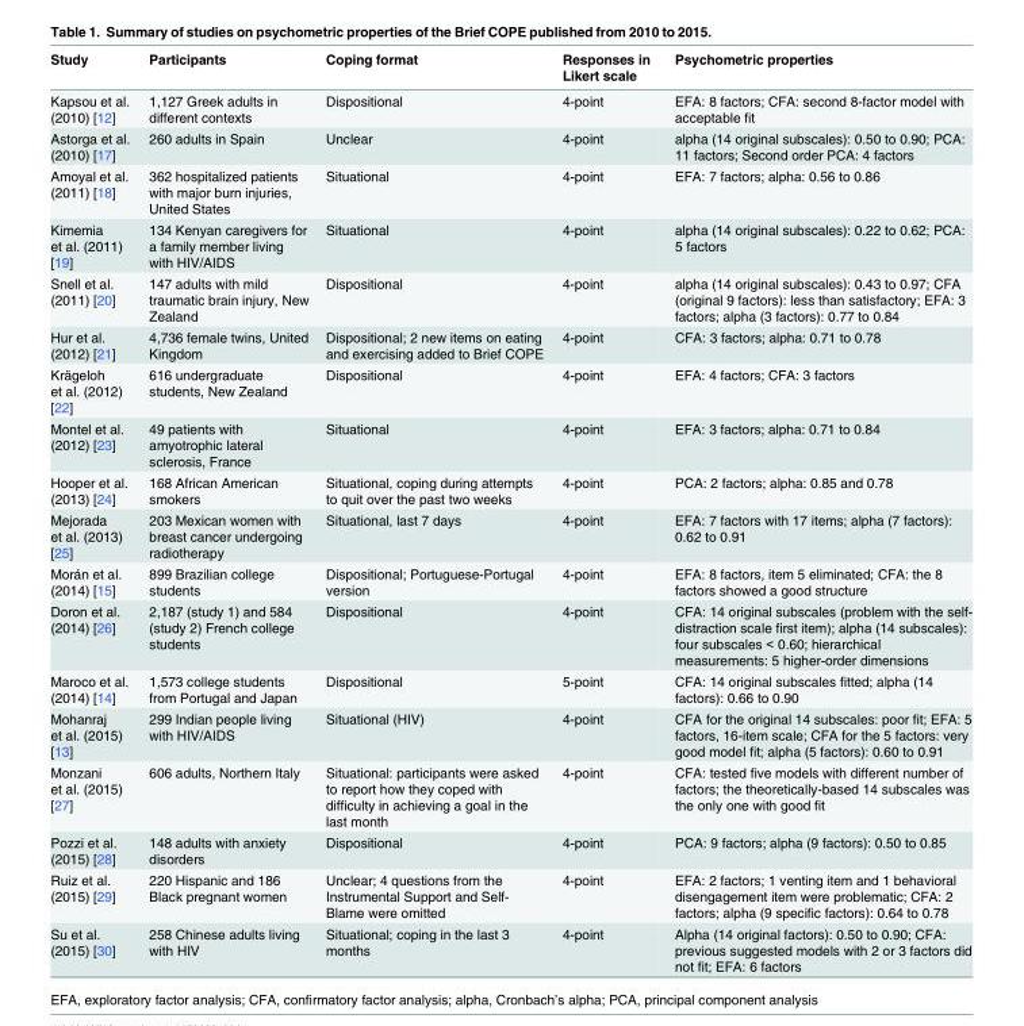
<table><thead><tr><td>Study</td><td>Participants</td><td>Coping format</td><td>Responses in Likert scale</td><td>Psychometric properties</td></tr></thead><tbody><tr><td>Kapsou et al. (2010) [12]</td><td>1,127 Greek adults in different contexts</td><td>Dispositional</td><td>4-point</td><td>EFA: 8 factors; CFA: second 8-factor model with acceptable fit</td></tr><tr><td>Astorga et al. (2010) [17]</td><td>260 adults in Spain</td><td>Unclear</td><td>4-point</td><td>alpha (14 original subscales): 0.50 to 0.90; PCA: 11 factors; Second order PCA: 4 factors</td></tr><tr><td>Amoyal et al. (2011) [18]</td><td>362 hospitalized patients with major burn injuries, United States</td><td>Situational</td><td>4-point</td><td>EFA: 7 factors; alpha: 0.56 to 0.86</td></tr><tr><td>Kimemia et al. (2011) [19]</td><td>134 Kenyan caregivers for a family member living with HIV/AIDS</td><td>Situational</td><td>4-point</td><td>alpha (14 original subscales): 0.22 to 0.62; PCA: 5 factors</td></tr><tr><td>Snell et al. (2011) [20]</td><td>147 adults with mild traumatic brain injury, New Zealand</td><td>Dispositional</td><td>4-point</td><td>alpha (14 original subscales): 0.43 to 0.97; CFA (original 9 factors): less than satisfactory; EFA: 3 factors; alpha (3 factors): 0.77 to 0.84</td></tr><tr><td>Hur et al. (2012) [21]</td><td>4,736 female twins, United Kingdom</td><td>Dispositional; 2 new items on eating and exercising added to Brief COPE</td><td>4-point</td><td>CFA: 3 factors; alpha: 0.71 to 0.78</td></tr><tr><td>Krägeloh et al. (2012) [22]</td><td>616 undergraduate students, New Zealand</td><td>Dispositional</td><td>4-point</td><td>EFA: 4 factors; CFA: 3 factors</td></tr><tr><td>Montel et al. (2012) [23]</td><td>49 patients with amyotrophic lateral sclerosis, France</td><td>Situational</td><td>4-point</td><td>EFA: 3 factors; alpha: 0.71 to 0.84</td></tr><tr><td>Hooper et al. (2013) [24]</td><td>168 African American smokers</td><td>Situational, coping during attempts to quit over the past two weeks</td><td>4-point</td><td>PCA: 2 factors; alpha: 0.85 and 0.78</td></tr><tr><td>Mejorada et al. (2013) [25]</td><td>203 Mexican women with breast cancer undergoing radiotherapy</td><td>Situational, last 7 days</td><td>4-point</td><td>EFA: 7 factors with 17 items; alpha (7 factors): 0.62 to 0.91</td></tr><tr><td>Morán et al. (2014) [15]</td><td>899 Brazilian college students</td><td>Dispositional; Portuguese-Portugal version</td><td>4-point</td><td>EFA: 8 factors, item 5 eliminated; CFA: the 8 factors showed a good structure</td></tr><tr><td>Doron et al. (2014) [26]</td><td>2,187 (study 1) and 584 (study 2) French college students</td><td>Dispositional</td><td>4-point</td><td>CFA: 14 original subscales (problem with the self- distraction scale first item); alpha (14 subscales): four subscales &lt; 0.60; hierarchical measurements: 5 higher-order dimensions</td></tr><tr><td>Maroco et al. (2014) [14]</td><td>1,573 college students from Portugal and Japan</td><td>Dispositional</td><td>5-point</td><td>CFA: 14 original subscales fitted; alpha (14 factors): 0.66 to 0.90</td></tr><tr><td>Mohanraj et al. (2015) [13]</td><td>299 Indian people living with HIV/AIDS</td><td>Situational (HIV)</td><td>4-point</td><td>CFA for the original 14 subscales: poor fit; EFA: 5 factors, 16-item scale; CFA for the 5 factors: very good model fit; alpha (5 factors): 0.60 to 0.91</td></tr><tr><td>Monzani et al. (2015) [27]</td><td>606 adults, Northern Italy</td><td>Situational: participants were asked to report how they coped with difficulty in achieving a goal in the last month</td><td>4-point</td><td>CFA: tested five models with different number of factors; the theoretically-based 14 subscales was the only one with good fit</td></tr><tr><td>Pozzi et al. (2015) [28]</td><td>148 adults with anxiety disorders</td><td>Dispositional</td><td>4-point</td><td>PCA: 9 factors; alpha (9 factors): 0.50 to 0.85</td></tr><tr><td>Ruiz et al. (2015) [29]</td><td>220 Hispanic and 186 Black pregnant women</td><td>Unclear; 4 questions from the Instrumental Support and Self- Blame were omitted</td><td>4-point</td><td>EFA: 2 factors; 1 venting item and 1 behavioral disengagement item were problematic; CFA: 2 factors; alpha (9 specific factors): 0.64 to 0.78</td></tr><tr><td>Su et al. (2015) [30]</td><td>258 Chinese adults living with HIV</td><td>Situational; coping in the last 3 months</td><td>4-point</td><td>Alpha (14 original factors): 0.50 to 0.90; CFA: previous suggested models with 2 or 3 factors did not fit; EFA: 6 factors</td></tr></tbody></table>